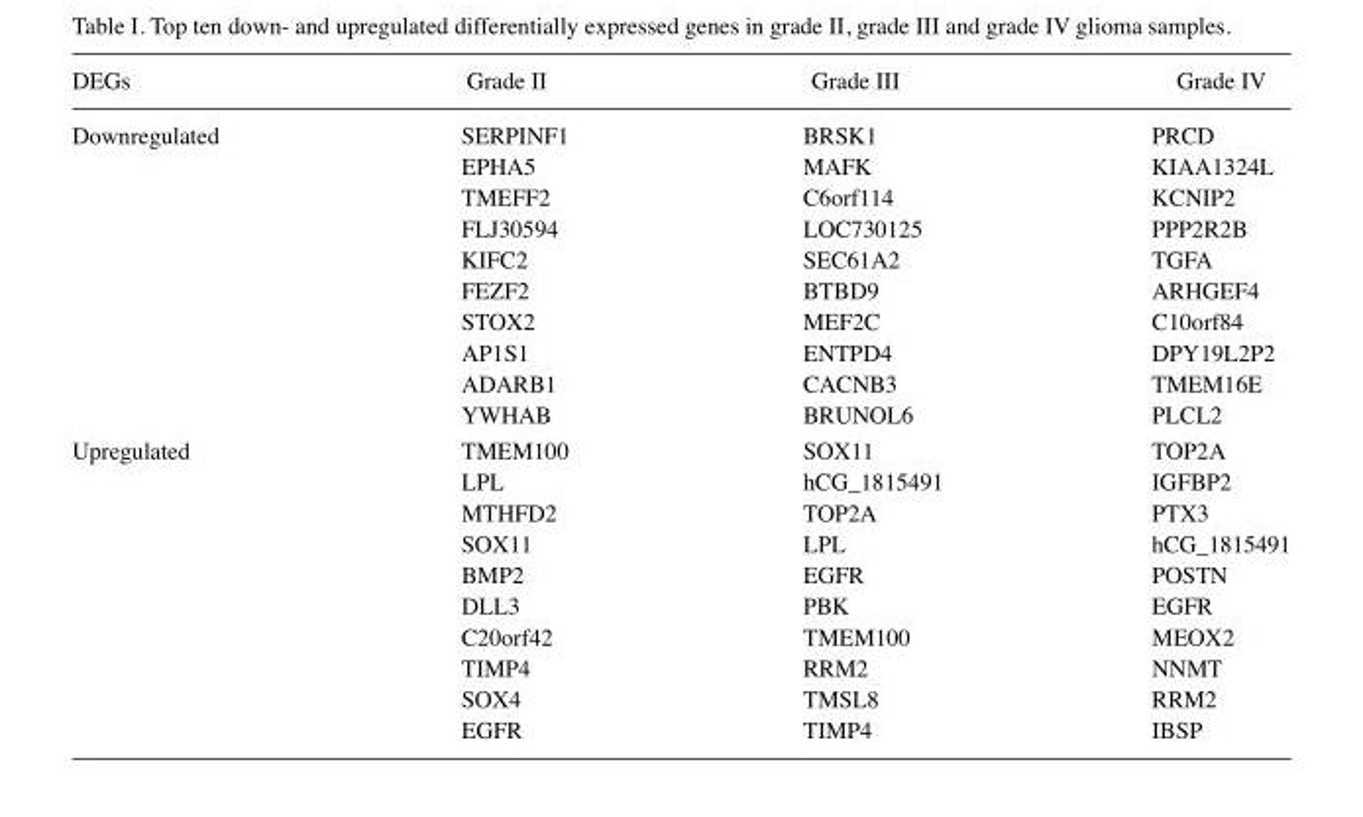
<table><thead><tr><td>DEGs</td><td>Grade II</td><td>Grade III</td><td>Grade IV</td></tr></thead><tbody><tr><td rowspan="10">Downregulated</td><td>SERPINF1</td><td>BRSK1</td><td>PRCD</td></tr><tr><td>EPHA5</td><td>MAFK</td><td>KIAA1324L</td></tr><tr><td>TMEFF2</td><td>C6orf114</td><td>KCNIP2</td></tr><tr><td>FLJ30594</td><td>LOC730125</td><td>PPP2R2B</td></tr><tr><td>KIFC2</td><td>SEC61A2</td><td>TGFA</td></tr><tr><td>FEZF2</td><td>BTBD9</td><td>ARHGEF4</td></tr><tr><td>STOX2</td><td>MEF2C</td><td>C10orf84</td></tr><tr><td>AP1S1</td><td>ENTPD4</td><td>DPY19L2P2</td></tr><tr><td>ADARB1</td><td>CACNB3</td><td>TMEM16E</td></tr><tr><td>YWHAB</td><td>BRUNOL6</td><td>PLCL2</td></tr><tr><td rowspan="10">Upregulated</td><td>TMEM100</td><td>SOX11</td><td>TOP2A</td></tr><tr><td>LPL</td><td>hCG_1815491</td><td>IGFBP2</td></tr><tr><td>MTHFD2</td><td>TOP2A</td><td>PTX3</td></tr><tr><td>SOX11</td><td>LPL</td><td>hCG_1815491</td></tr><tr><td>BMP2</td><td>EGFR</td><td>POSTN</td></tr><tr><td>DLL3</td><td>PBK</td><td>EGFR</td></tr><tr><td>C20orf42</td><td>TMEM100</td><td>MEOX2</td></tr><tr><td>TIMP4</td><td>RRM2</td><td>NNMT</td></tr><tr><td>SOX4</td><td>TMSL8</td><td>RRM2</td></tr><tr><td>EGFR</td><td>TIMP4</td><td>IBSP</td></tr></tbody></table>